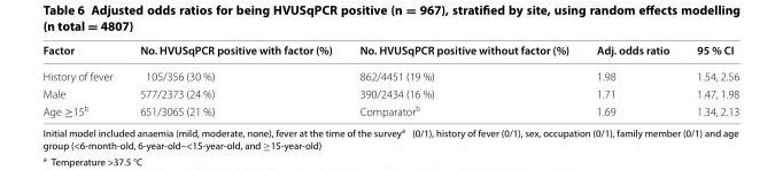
<table><thead><tr><td>Factor</td><td>No. HVUSqPCR positive with factor (%)</td><td>No. HVUSqPCR positive without factor (%)</td><td>Adj. odds ratio</td><td>95 % CI</td></tr></thead><tbody><tr><td>History of fever</td><td>105/356 (30 %)</td><td>862/4451 (19 %)</td><td>1.98</td><td>1.54, 2.56</td></tr><tr><td>Male</td><td>577/2373 (24 %)</td><td>390/2434 (16 %)</td><td>1.71</td><td>1.47, 1.98</td></tr><tr><td>Age ≥15<sup>b</sup></td><td>651/3065 (21 %)</td><td>Comparator<sup>b</sup></td><td>1.69</td><td>1.34, 2.13</td></tr></tbody></table>